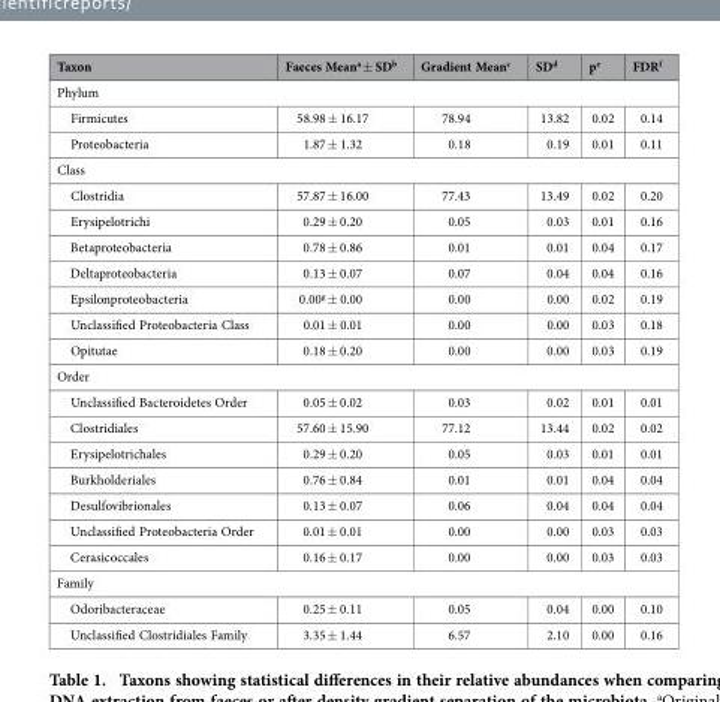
<table><thead><tr><td>Taxon</td><td>Faeces Mean<sup>a</sup> ± SD<sup>b</sup></td><td>Gradient Mean<sup>c</sup></td><td>SD<sup>d</sup></td><td>p<sup>e</sup></td><td>FDR<sup>f</sup></td></tr></thead><tbody><tr><td colspan="6">Phylum</td></tr><tr><td>Firmicutes</td><td>58.98 ± 16.17</td><td>78.94</td><td>13.82</td><td>0.02</td><td>0.14</td></tr><tr><td>Proteobacteria</td><td>1.87 ± 1.32</td><td>0.18</td><td>0.19</td><td>0.01</td><td>0.11</td></tr><tr><td colspan="6">Class</td></tr><tr><td>Clostridia</td><td>57.87 ± 16.00</td><td>77.43</td><td>13.49</td><td>0.02</td><td>0.20</td></tr><tr><td>Erysipelotrichi</td><td>0.29 ± 0.20</td><td>0.05</td><td>0.03</td><td>0.01</td><td>0.16</td></tr><tr><td>Betaproteobacteria</td><td>0.78 ± 0.86</td><td>0.01</td><td>0.01</td><td>0.04</td><td>0.17</td></tr><tr><td>Deltaproteobacteria</td><td>0.13 ± 0.07</td><td>0.07</td><td>0.04</td><td>0.04</td><td>0.16</td></tr><tr><td>Epsilonproteobacteria</td><td>0.00<sup>g</sup> ± 0.00</td><td>0.00</td><td>0.00</td><td>0.02</td><td>0.19</td></tr><tr><td>Unclassified Proteobacteria Class</td><td>0.01 ± 0.01</td><td>0.00</td><td>0.00</td><td>0.03</td><td>0.18</td></tr><tr><td>Opitutae</td><td>0.18 ± 0.20</td><td>0.00</td><td>0.00</td><td>0.03</td><td>0.19</td></tr><tr><td colspan="6">Order</td></tr><tr><td>Unclassified Bacteroidetes Order</td><td>0.05 ± 0.02</td><td>0.03</td><td>0.02</td><td>0.01</td><td>0.01</td></tr><tr><td>Clostridiales</td><td>57.60 ± 15.90</td><td>77.12</td><td>13.44</td><td>0.02</td><td>0.02</td></tr><tr><td>Erysipelotrichales</td><td>0.29 ± 0.20</td><td>0.05</td><td>0.03</td><td>0.01</td><td>0.01</td></tr><tr><td>Burkholderiales</td><td>0.76 ± 0.84</td><td>0.01</td><td>0.01</td><td>0.04</td><td>0.04</td></tr><tr><td>Desulfovibrionales</td><td>0.13 ± 0.07</td><td>0.06</td><td>0.04</td><td>0.04</td><td>0.04</td></tr><tr><td>Unclassified Proteobacteria Order</td><td>0.01 ± 0.01</td><td>0.00</td><td>0.00</td><td>0.03</td><td>0.03</td></tr><tr><td>Cerasicoccales</td><td>0.16 ± 0.17</td><td>0.00</td><td>0.00</td><td>0.03</td><td>0.03</td></tr><tr><td colspan="6">Family</td></tr><tr><td>Odoribacteraceae</td><td>0.25 ± 0.11</td><td>0.05</td><td>0.04</td><td>0.00</td><td>0.10</td></tr><tr><td>Unclassified Clostridiales Family</td><td>3.35 ± 1.44</td><td>6.57</td><td>2.10</td><td>0.00</td><td>0.16</td></tr></tbody></table>